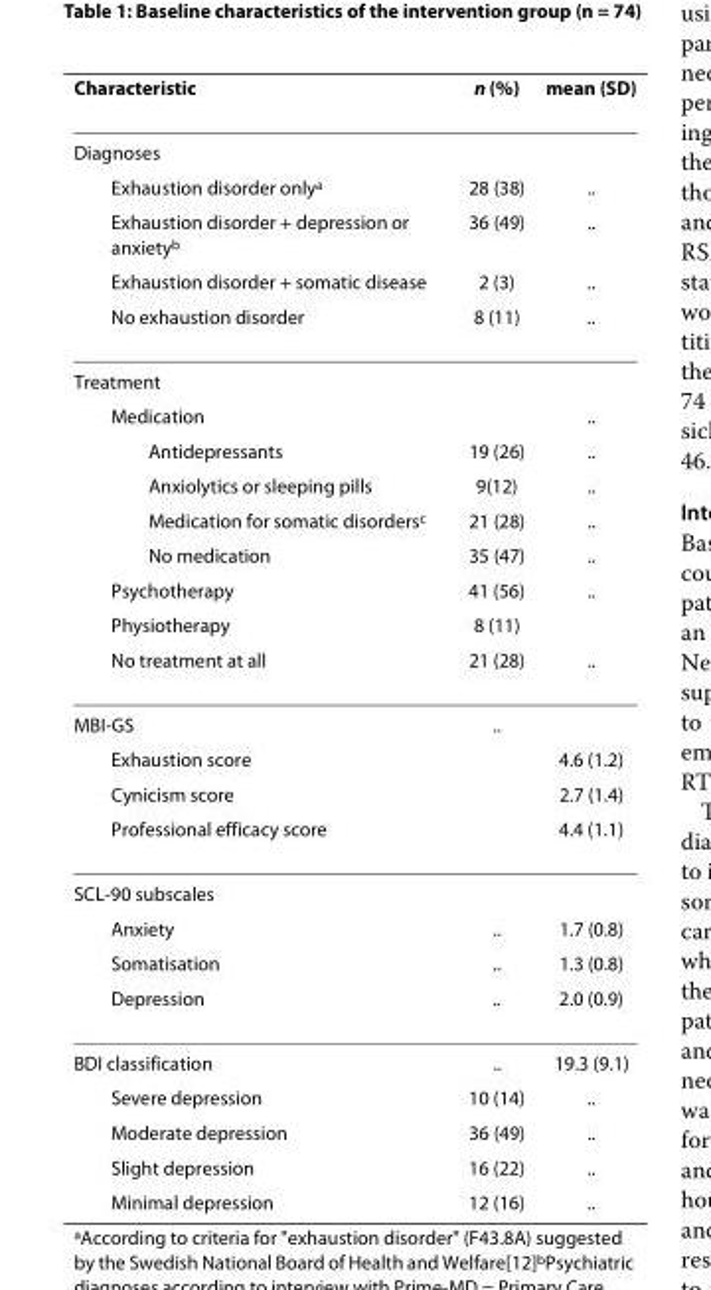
<table><thead><tr><td>Characteristic</td><td>n (%)</td><td>mean (SD)</td></tr></thead><tbody><tr><td colspan="3">Diagnoses</td></tr><tr><td>Exhaustion disorder only<sup>a</sup></td><td>28 (38)</td><td>..</td></tr><tr><td>Exhaustion disorder + depression or anxiety<sup>b</sup></td><td>36 (49)</td><td>..</td></tr><tr><td>Exhaustion disorder + somatic disease</td><td>2 (3)</td><td>..</td></tr><tr><td>No exhaustion disorder</td><td>8 (11)</td><td>..</td></tr><tr><td colspan="3">Treatment</td></tr><tr><td>Medication</td><td></td><td>..</td></tr><tr><td>Antidepressants</td><td>19 (26)</td><td>..</td></tr><tr><td>Anxiolytics or sleeping pills</td><td>9(12)</td><td>..</td></tr><tr><td>Medication for somatic disorders<sup>c</sup></td><td>21 (28)</td><td>..</td></tr><tr><td>No medication</td><td>35 (47)</td><td>..</td></tr><tr><td>Psychotherapy</td><td>41 (56)</td><td>..</td></tr><tr><td>Physiotherapy</td><td>8 (11)</td><td></td></tr><tr><td>No treatment at all</td><td>21 (28)</td><td>..</td></tr><tr><td>MBI-GS</td><td>..</td><td></td></tr><tr><td>Exhaustion score</td><td></td><td>4.6 (1.2)</td></tr><tr><td>Cynicism score</td><td></td><td>2.7 (1.4)</td></tr><tr><td>Professional efficacy score</td><td></td><td>4.4 (1.1)</td></tr><tr><td colspan="3">SCL-90 subscales</td></tr><tr><td>Anxiety</td><td>..</td><td>1.7 (0.8)</td></tr><tr><td>Somatisation</td><td>..</td><td>1.3 (0.8)</td></tr><tr><td>Depression</td><td>..</td><td>2.0 (0.9)</td></tr><tr><td>BDI classification</td><td>..</td><td>19.3 (9.1)</td></tr><tr><td>Severe depression</td><td>10 (14)</td><td>..</td></tr><tr><td>Moderate depression</td><td>36 (49)</td><td>..</td></tr><tr><td>Slight depression</td><td>16 (22)</td><td>..</td></tr><tr><td>Minimal depression</td><td>12 (16)</td><td>..</td></tr></tbody></table>